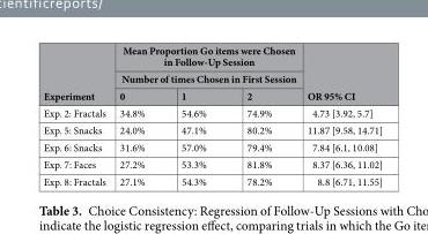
<table><thead><tr><td rowspan="3">Experiment</td><td rowspan="2" colspan="3">Mean Proportion Go items were Chosen in Follow-Up Session Number of times Chosen in First Session</td><td rowspan="3">OR 95% CI</td></tr><tr></tr><tr><td>0</td><td>1</td><td>2</td></tr></thead><tbody><tr><td>Exp. 2: Fractals</td><td>34.8%</td><td>54.6%</td><td>74.9%</td><td>4.73 [3.92, 5.7]</td></tr><tr><td>Exp. 5: Snacks</td><td>24.0%</td><td>47.1%</td><td>80.2%</td><td>11.87 [9.58, 14.71]</td></tr><tr><td>Exp. 6: Snacks</td><td>31.6%</td><td>57.0%</td><td>79.4%</td><td>7.84 [6.1, 10.08]</td></tr><tr><td>Exp. 7: Faces</td><td>27.2%</td><td>53.3%</td><td>81.8%</td><td>8.37 [6.36, 11.02]</td></tr><tr><td>Exp. 8: Fractals</td><td>27.1%</td><td>54.3%</td><td>78.2%</td><td>8.8 [6.71, 11.55]</td></tr></tbody></table>